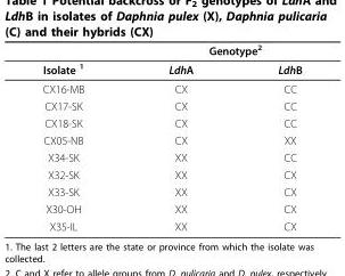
<table><thead><tr><td rowspan="2">Isolate <sup>1</sup></td><td colspan="2">Genotype<sup>2</sup></td></tr><tr><td>LdhA</td><td>LdhB</td></tr></thead><tbody><tr><td>CX16-MB</td><td>CX</td><td>CC</td></tr><tr><td>CX17-SK</td><td>CX</td><td>CC</td></tr><tr><td>CX18-SK</td><td>CX</td><td>CC</td></tr><tr><td>CX05-NB</td><td>CX</td><td>XX</td></tr><tr><td>X34-SK</td><td>XX</td><td>CC</td></tr><tr><td>X32-SK</td><td>XX</td><td>CX</td></tr><tr><td>X33-SK</td><td>XX</td><td>CX</td></tr><tr><td>X30-OH</td><td>XX</td><td>CX</td></tr><tr><td>X35-IL</td><td>XX</td><td>CX</td></tr></tbody></table>